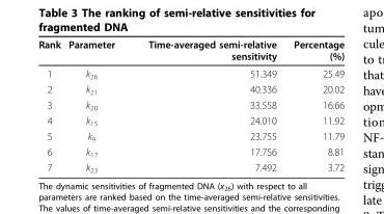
<table><thead><tr><td>Rank</td><td>Parameter</td><td>Time-averaged semi-relative sensitivity</td><td>Percentage (%)</td></tr></thead><tbody><tr><td>1</td><td>k<sub>26</sub></td><td>51.349</td><td>25.49</td></tr><tr><td>2</td><td>k<sub>21</sub></td><td>40.336</td><td>20.02</td></tr><tr><td>3</td><td>k<sub>20</sub></td><td>33.558</td><td>16.66</td></tr><tr><td>4</td><td>k<sub>15</sub></td><td>24.010</td><td>11.92</td></tr><tr><td>5</td><td>k<sub>9</sub></td><td>23.755</td><td>11.79</td></tr><tr><td>6</td><td>k<sub>17</sub></td><td>17.756</td><td>8.81</td></tr><tr><td>7</td><td>k<sub>23</sub></td><td>7.492</td><td>3.72</td></tr></tbody></table>